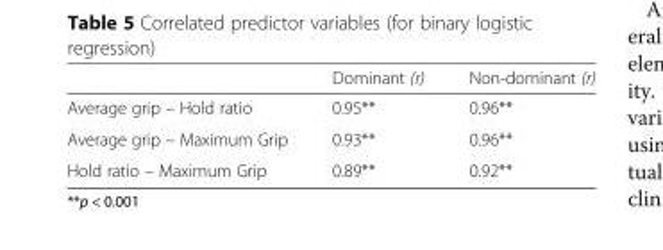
<table><thead><tr><td></td><td>Dominant (r)</td><td>Non-dominant (r)</td></tr></thead><tbody><tr><td>Average grip – Hold ratio</td><td>0.95**</td><td>0.96**</td></tr><tr><td>Average grip – Maximum Grip</td><td>0.93**</td><td>0.96**</td></tr><tr><td>Hold ratio – Maximum Grip</td><td>0.89**</td><td>0.92**</td></tr></tbody></table>